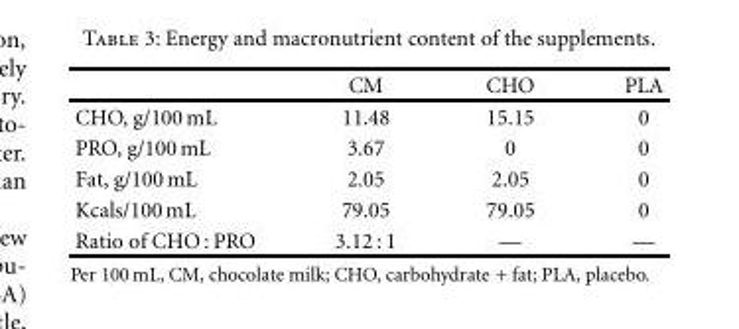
<table><thead><tr><td></td><td>CM</td><td>CHO</td><td>PLA</td></tr></thead><tbody><tr><td>CHO, g/100 mL</td><td>11.48</td><td>15.15</td><td>0</td></tr><tr><td>PRO, g/100 mL</td><td>3.67</td><td>0</td><td>0</td></tr><tr><td>Fat, g/100 mL</td><td>2.05</td><td>2.05</td><td>0</td></tr><tr><td>Kcals/100mL</td><td>79.05</td><td>79.05</td><td>0</td></tr><tr><td>Ratio of CHO : PRO</td><td>3.12 : 1</td><td>—</td><td>—</td></tr></tbody></table>